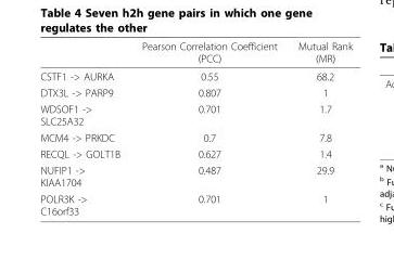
<table><thead><tr><td></td><td>Pearson Correlation Coefficient (PCC)</td><td>Mutual Rank (MR)</td></tr></thead><tbody><tr><td>CSTF1 -&gt; AURKA</td><td>0.55</td><td>68.2</td></tr><tr><td>DTX3L -&gt; PARP9</td><td>0.807</td><td>1</td></tr><tr><td>WDSOF1 -&gt; SLC25A32</td><td>0.701</td><td>1.7</td></tr><tr><td>MCM4 -&gt; PRKDC</td><td>0.7</td><td>7.8</td></tr><tr><td>RECQL -&gt; GOLT1B</td><td>0.627</td><td>1.4</td></tr><tr><td>NUFIP1 -&gt; KIAA1704</td><td>0.487</td><td>29.9</td></tr><tr><td>POLR3K -&gt; C16orf33</td><td>0.701</td><td>1</td></tr></tbody></table>